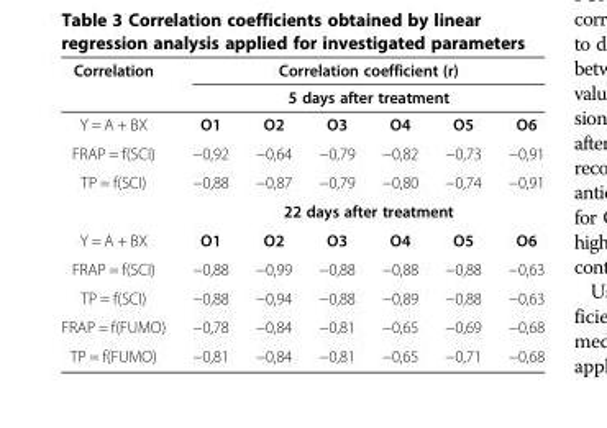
<table><thead><tr><td rowspan="3">Correlation Y = A + BX</td><td rowspan="2" colspan="6">Correlation coefficient (r) 5 days after treatment</td></tr><tr></tr><tr><td>O1</td><td>O2</td><td>O3</td><td>O4</td><td>O5</td><td>O6</td></tr></thead><tbody><tr><td>FRAP = f(SCI)</td><td>−0,92</td><td>−0,64</td><td>−0,79</td><td>−0,82</td><td>−0,73</td><td>−0,91</td></tr><tr><td rowspan="2">TP = f(SCI)</td><td>−0,88</td><td>−0,87</td><td>−0,79</td><td>−0,80</td><td>−0,74</td><td>−0,91</td></tr><tr><td colspan="6">22 days after treatment</td></tr><tr><td>Y = A + BX</td><td>O1</td><td>O2</td><td>O3</td><td>O4</td><td>O5</td><td>O6</td></tr><tr><td>FRAP = f(SCI)</td><td>−0,88</td><td>−0,99</td><td>−0,88</td><td>−0,88</td><td>−0,88</td><td>−0,63</td></tr><tr><td>TP = f(SCI)</td><td>−0,88</td><td>−0,94</td><td>−0,88</td><td>−0,89</td><td>−0,88</td><td>−0,63</td></tr><tr><td>FRAP = f(FUMO)</td><td>−0,78</td><td>−0,84</td><td>−0,81</td><td>−0,65</td><td>−0,69</td><td>−0,68</td></tr><tr><td>TP = f(FUMO)</td><td>−0,81</td><td>−0,84</td><td>−0,81</td><td>−0,65</td><td>−0,71</td><td>−0,68</td></tr></tbody></table>